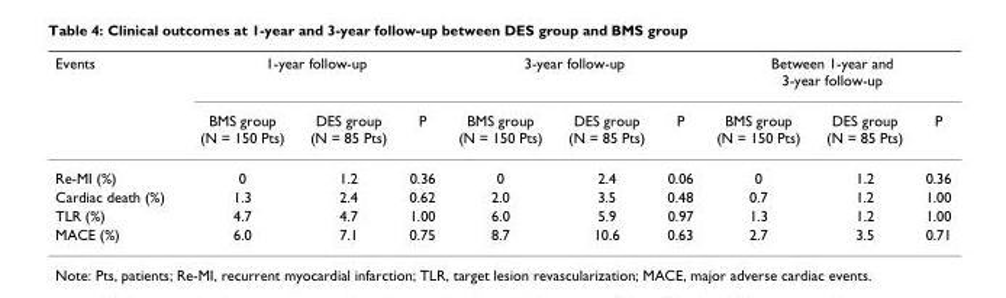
<table><thead><tr><td rowspan="2">Events</td><td colspan="3">1-year follow-up</td><td colspan="3">3-year follow-up</td><td colspan="3">Between 1-year and 3-year follow-up</td></tr><tr><td>BMS group (N = 150 Pts)</td><td>DES group (N = 85 Pts)</td><td>P</td><td>BMS group (N = 150 Pts)</td><td>DES group (N = 85 Pts)</td><td>P</td><td>BMS group (N = 150 Pts)</td><td>DES group (N = 85 Pts)</td><td>P</td></tr></thead><tbody><tr><td>Re-MI (%)</td><td>0</td><td>1.2</td><td>0.36</td><td>0</td><td>2.4</td><td>0.06</td><td>0</td><td>1.2</td><td>0.36</td></tr><tr><td>Cardiac death (%)</td><td>1.3</td><td>2.4</td><td>0.62</td><td>2.0</td><td>3.5</td><td>0.48</td><td>0.7</td><td>1.2</td><td>1.00</td></tr><tr><td>TLR (%)</td><td>4.7</td><td>4.7</td><td>1.00</td><td>6.0</td><td>5.9</td><td>0.97</td><td>1.3</td><td>1.2</td><td>1.00</td></tr><tr><td>MACE (%)</td><td>6.0</td><td>7.1</td><td>0.75</td><td>8.7</td><td>10.6</td><td>0.63</td><td>2.7</td><td>3.5</td><td>0.71</td></tr></tbody></table>